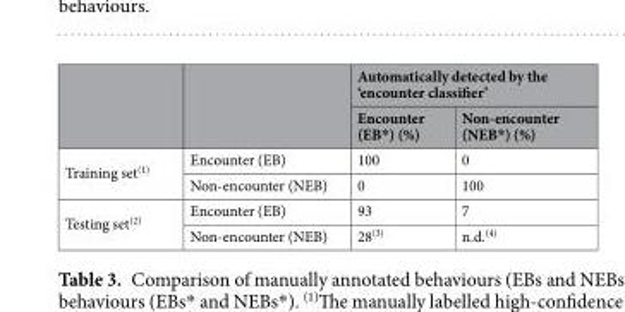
<table><thead><tr><td rowspan="2"></td><td rowspan="2"></td><td colspan="2">Automatically detected by the ‘encounter classifier’</td></tr><tr><td>Encounter (EB*) (%)</td><td>Non-encounter (NEB*) (%)</td></tr></thead><tbody><tr><td rowspan="2">Training set<sup>(1)</sup></td><td>Encounter (EB)</td><td>100</td><td>0</td></tr><tr><td>Non-encounter (NEB)</td><td>0</td><td>100</td></tr><tr><td rowspan="2">Testing set<sup>(2)</sup></td><td>Encounter (EB)</td><td>93</td><td>7</td></tr><tr><td>Non-encounter (NEB)</td><td>28<sup>(3)</sup></td><td>n.d.<sup>(4)</sup></td></tr></tbody></table>